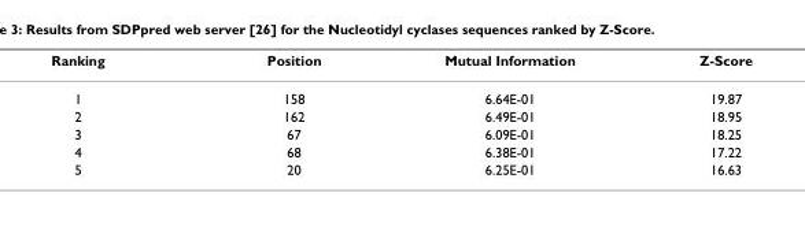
<table><thead><tr><td>Ranking</td><td>Position</td><td>Mutual Information</td><td>Z-Score</td></tr></thead><tbody><tr><td>1</td><td>158</td><td>6.64E-01</td><td>19.87</td></tr><tr><td>2</td><td>162</td><td>6.49E-01</td><td>18.95</td></tr><tr><td>3</td><td>67</td><td>6.09E-01</td><td>18.25</td></tr><tr><td>4</td><td>68</td><td>6.38E-01</td><td>17.22</td></tr><tr><td>5</td><td>20</td><td>6.25E-01</td><td>16.63</td></tr></tbody></table>